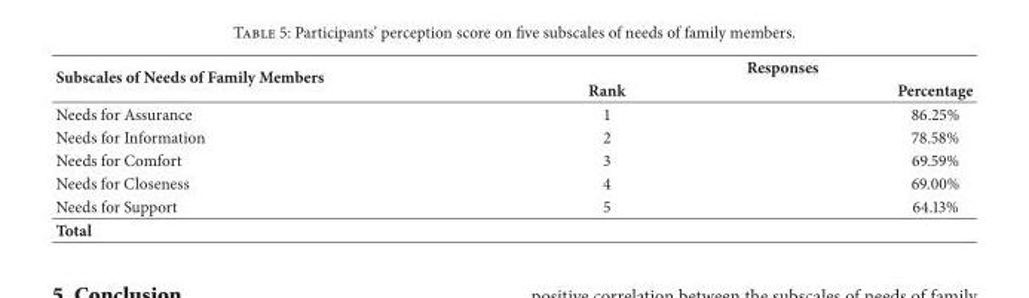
<table><thead><tr><td rowspan="2">Subscales of Needs of Family Members</td><td colspan="2">Responses</td></tr><tr><td>Rank</td><td>Percentage</td></tr></thead><tbody><tr><td>Needs for Assurance</td><td>1</td><td>86.25%</td></tr><tr><td>Needs for Information</td><td>2</td><td>78.58%</td></tr><tr><td>Needs for Comfort</td><td>3</td><td>69.59%</td></tr><tr><td>Needs for Closeness</td><td>4</td><td>69.00%</td></tr><tr><td>Needs for Support</td><td>5</td><td>64.13%</td></tr><tr><td>Total</td><td></td><td></td></tr></tbody></table>